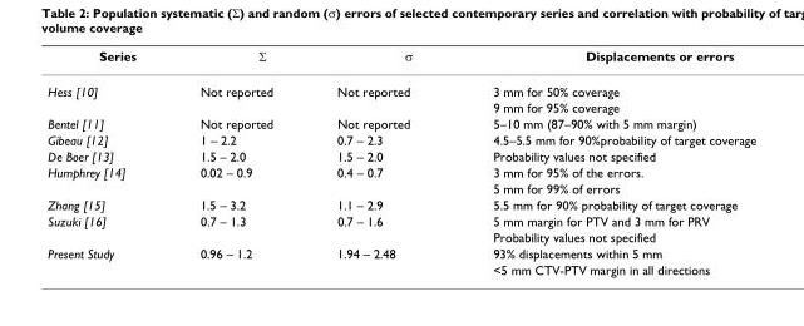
<table><thead><tr><td>Series</td><td>Σ</td><td>σ</td><td>Displacements or errors</td></tr></thead><tbody><tr><td rowspan="2">Hess [10]</td><td>Not reported</td><td>Not reported</td><td>3 mm for 50% coverage</td></tr><tr><td></td><td></td><td>9 mm for 95% coverage</td></tr><tr><td>Bentel [11]</td><td>Not reported</td><td>Not reported</td><td>5–10 mm (87–90% with 5 mm margin)</td></tr><tr><td>Gibeau [12]</td><td>1 – 2.2</td><td>0.7 – 2.3</td><td>4.5–5.5 mm for 90%probability of target coverage</td></tr><tr><td>De Boer [13]</td><td>1.5 – 2.0</td><td>1.5 – 2.0</td><td>Probability values not specified</td></tr><tr><td rowspan="2">Humphrey [14]</td><td>0.02 – 0.9</td><td>0.4 – 0.7</td><td>3 mm for 95% of the errors.</td></tr><tr><td></td><td></td><td>5 mm for 99% of errors</td></tr><tr><td>Zhang [15]</td><td>1.5 – 3.2</td><td>1.1 – 2.9</td><td>5.5 mm for 90% probability of target coverage</td></tr><tr><td rowspan="2">Suzuki [16]</td><td>0.7 – 1.3</td><td>0.7 – 1.6</td><td>5 mm margin for PTV and 3 mm for PRV</td></tr><tr><td></td><td></td><td>Probability values not specified</td></tr><tr><td rowspan="2">Present Study</td><td>0.96 – 1.2</td><td>1.94 – 2.48</td><td>93% displacements within 5 mm</td></tr><tr><td></td><td></td><td>&lt;5 mm CTV-PTV margin in all directions</td></tr></tbody></table>